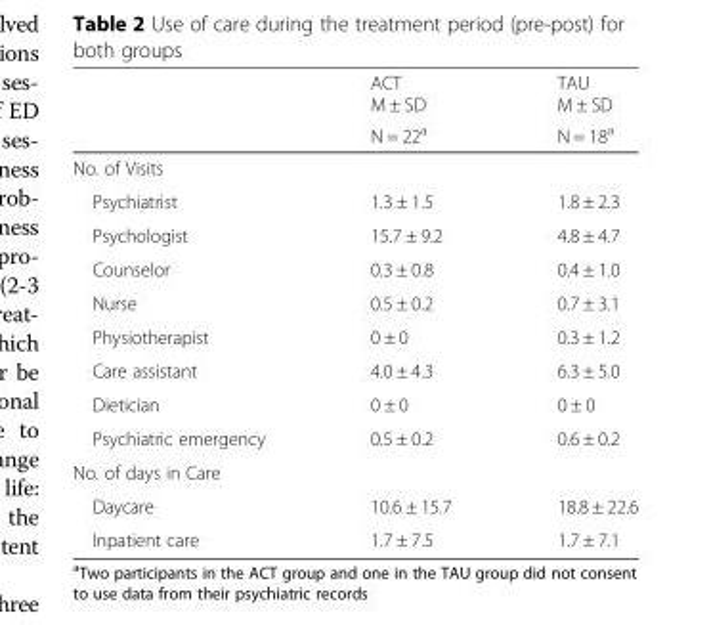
<table><thead><tr><td rowspan="2"></td><td rowspan="2">ACT M ± SD N = 22<sup>a</sup></td><td rowspan="2">TAU M ± SD N = 18<sup>a</sup></td></tr><tr></tr></thead><tbody><tr><td colspan="3">No. of Visits</td></tr><tr><td>Psychiatrist</td><td>1.3 ± 1.5</td><td>1.8 ± 2.3</td></tr><tr><td>Psychologist</td><td>15.7 ± 9.2</td><td>4.8 ± 4.7</td></tr><tr><td>Counselor</td><td>0.3 ± 0.8</td><td>0.4 ± 1.0</td></tr><tr><td>Nurse</td><td>0.5 ± 0.2</td><td>0.7 ± 3.1</td></tr><tr><td>Physiotherapist</td><td>0 ± 0</td><td>0.3 ± 1.2</td></tr><tr><td>Care assistant</td><td>4.0 ± 4.3</td><td>6.3 ± 5.0</td></tr><tr><td>Dietician</td><td>0 ± 0</td><td>0 ± 0</td></tr><tr><td>Psychiatric emergency</td><td>0.5 ± 0.2</td><td>0.6 ± 0.2</td></tr><tr><td colspan="3">No. of days in Care</td></tr><tr><td>Daycare</td><td>10.6 ± 15.7</td><td>18.8 ± 22.6</td></tr><tr><td>Inpatient care</td><td>1.7 ± 7.5</td><td>1.7 ± 7.1</td></tr></tbody></table>